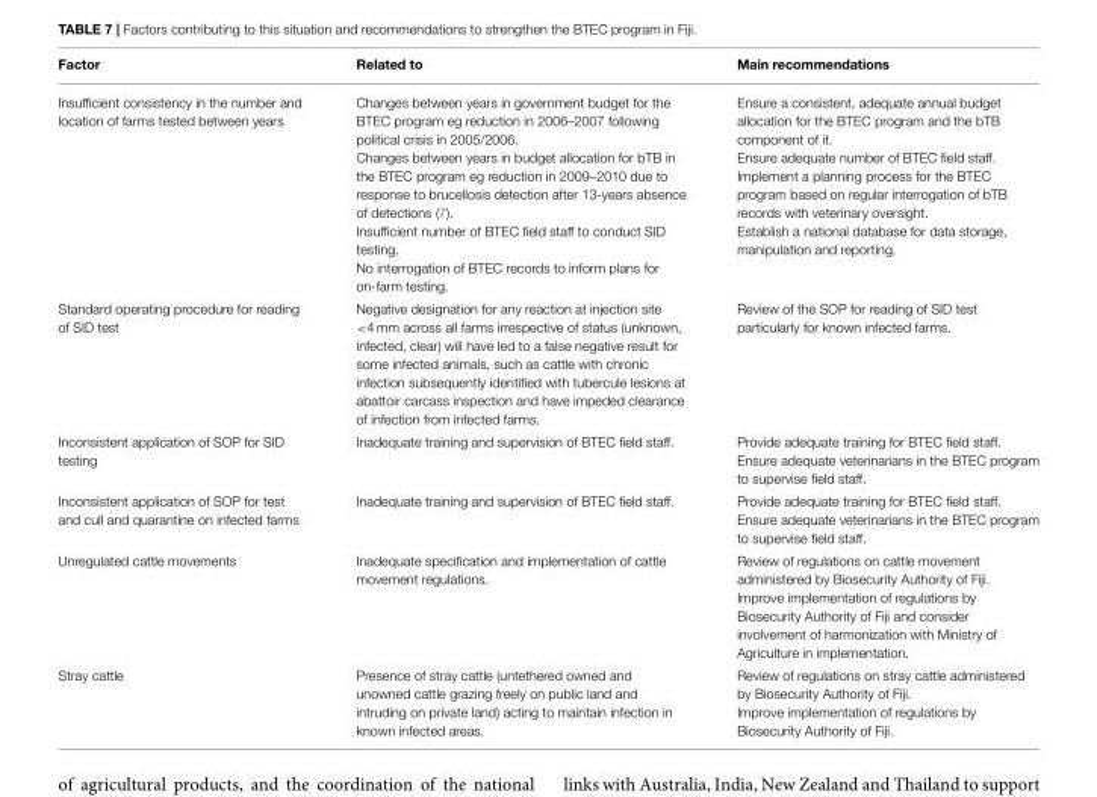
<table><thead><tr><td>Factor</td><td>Related to</td><td>Main recommendations</td></tr></thead><tbody><tr><td>Insufficient consistency in the number and location of farms tested between years</td><td>Changes between years in government budget for the BTEC program eg reduction in 2006–2007 following political crisis in 2005/2006. Changes between years in budget allocation for bTB in the BTEC program eg reduction in 2009–2010 due to response to brucellosis detection after 13-years absence of detections (7). Insufficient number of BTEC field staff to conduct SID testing. No interrogation of BTEC records to inform plans for on-farm testing.</td><td>Ensure a consistent, adequate annual budget allocation for the BTEC program and the bTB component of it. Ensure adequate number of BTEC field staff. Implement a planning process for the BTEC program based on regular interrogation of bTB records with veterinary oversight. Establish a national database for data storage, manipulation and reporting.</td></tr><tr><td>Standard operating procedure for reading of SID test</td><td>Negative designation for any reaction at injection site &lt;4 mm across all farms irrespective of status (unknown, infected, clear) will have led to a false negative result for some infected animals, such as cattle with chronic infection subsequently identified with tubercule lesions at abattoir carcass inspection and have impeded clearance of infection from infected farms.</td><td>Review of the SOP for reading of SID test particularly for known infected farms.</td></tr><tr><td>Inconsistent application of SOP for SID testing</td><td>Inadequate training and supervision of BTEC field staff.</td><td>Provide adequate training for BTEC field staff. Ensure adequate veterinarians in the BTEC program to supervise field staff.</td></tr><tr><td>Inconsistent application of SOP for test and cull and quarantine on infected farms</td><td>Inadequate training and supervision of BTEC field staff.</td><td>Provide adequate training for BTEC field staff. Ensure adequate veterinarians in the BTEC program to supervise field staff.</td></tr><tr><td>Unregulated cattle movements</td><td>Inadequate specification and implementation of cattle movement regulations.</td><td>Review of regulations on cattle movement administered by Biosecurity Authority of Fiji. Improve implementation of regulations by Biosecurity Authority of Fiji and consider involvement of harmonization with Ministry of Agriculture in implementation.</td></tr><tr><td>Stray cattle</td><td>Presence of stray cattle (untethered owned and unowned cattle grazing freely on public land and intruding on private land) acting to maintain infection in known infected areas.</td><td>Review of regulations on stray cattle administered by Biosecurity Authority of Fiji. Improve implementation of regulations by Biosecurity Authority of Fiji.</td></tr></tbody></table>